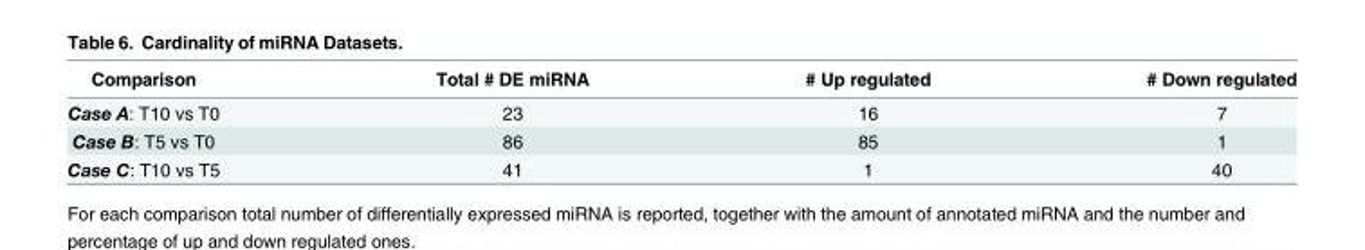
<table><thead><tr><td>Comparison</td><td>Total # DE miRNA</td><td># Up regulated</td><td># Down regulated</td></tr></thead><tbody><tr><td>Case A: T10 vs T0</td><td>23</td><td>16</td><td>7</td></tr><tr><td>Case B: T5 vs T0</td><td>86</td><td>85</td><td>1</td></tr><tr><td>Case C: T10 vs T5</td><td>41</td><td>1</td><td>40</td></tr></tbody></table>